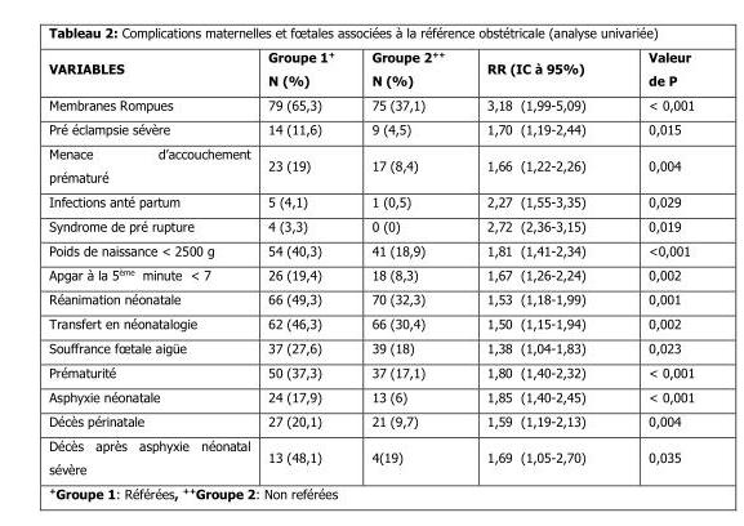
<table><thead><tr><td>VARIABLES</td><td>Groupe 1<sup>+</sup> N (%)</td><td>Groupe 2<sup>++</sup> N (%)</td><td>RR (IC à 95%)</td><td>Valeur de P</td></tr></thead><tbody><tr><td>Membranes Rompues</td><td>79 (65,3)</td><td>75 (37,1)</td><td>3,18 (1,99-5,09)</td><td>&lt; 0,001</td></tr><tr><td>Pré éclampsie sévère</td><td>14 (11,6)</td><td>9 (4,5)</td><td>1,70 (1,19-2,44)</td><td>0,015</td></tr><tr><td>Menace d’accouchement prématuré</td><td>23 (19)</td><td>17 (8,4)</td><td>1,66 (1,22-2,26)</td><td>0,004</td></tr><tr><td>Infections anté partum</td><td>5 (4,1)</td><td>1 (0,5)</td><td>2,27 (1,55-3,35)</td><td>0,029</td></tr><tr><td>Syndrome de pré rupture</td><td>4 (3,3)</td><td>0 (0)</td><td>2,72 (2,36-3,15)</td><td>0,019</td></tr><tr><td>Poids de naissance &lt; 2500 g</td><td>54 (40,3)</td><td>41 (18,9)</td><td>1,81 (1,41-2,34)</td><td>&lt;0,001</td></tr><tr><td>Apgar à la 5<sup>ème</sup> minute &lt; 7</td><td>26 (19,4)</td><td>18 (8,3)</td><td>1,67 (1,26-2,24)</td><td>0,002</td></tr><tr><td>Réanimation néonatale</td><td>66 (49,3)</td><td>70 (32,3)</td><td>1,53 (1,18-1,99)</td><td>0,001</td></tr><tr><td>Transfert en néonatalogie</td><td>62 (46,3)</td><td>66 (30,4)</td><td>1,50 (1,15-1,94)</td><td>0,002</td></tr><tr><td>Souffrance fœtale aigüe</td><td>37 (27,6)</td><td>39 (18)</td><td>1,38 (1,04-1,83)</td><td>0,023</td></tr><tr><td>Prématurité</td><td>50 (37,3)</td><td>37 (17,1)</td><td>1,80 (1,40-2,32)</td><td>&lt; 0,001</td></tr><tr><td>Asphyxie néonatale</td><td>24 (17,9)</td><td>13 (6)</td><td>1,85 (1,40-2,45)</td><td>&lt; 0,001</td></tr><tr><td>Décès périnatale</td><td>27 (20,1)</td><td>21 (9,7)</td><td>1,59 (1,19-2,13)</td><td>0,004</td></tr><tr><td>Décès après asphyxie néonatal sévère</td><td>13 (48,1)</td><td>4(19)</td><td>1,69 (1,05-2,70)</td><td>0,035</td></tr></tbody></table>